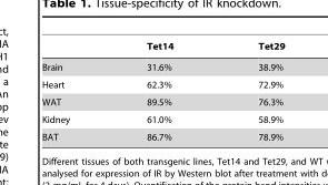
<table><thead><tr><td></td><td>Tet14</td><td>Tet29</td></tr></thead><tbody><tr><td>Brain</td><td>31.6%</td><td>38.9%</td></tr><tr><td>Heart</td><td>62.3%</td><td>72.9%</td></tr><tr><td>WAT</td><td>89.5%</td><td>76.3%</td></tr><tr><td>Kidney</td><td>61.0%</td><td>58.9%</td></tr><tr><td>BAT</td><td>86.7%</td><td>78.9%</td></tr></tbody></table>